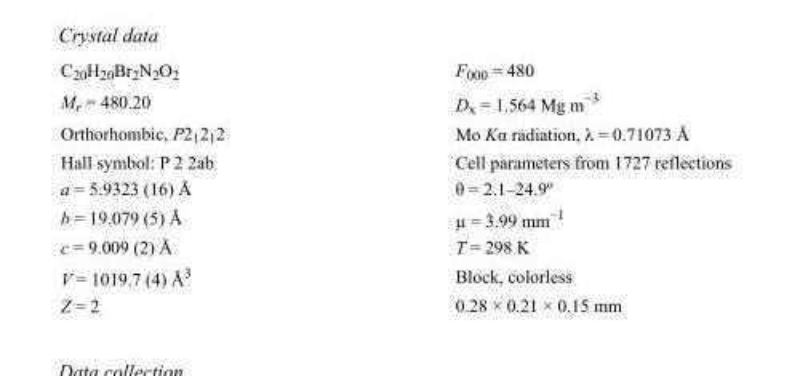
<table><tbody><tr><td>C<sub>20</sub>H<sub>20</sub>Br<sub>2</sub>N<sub>2</sub>O<sub>2</sub></td><td>F000 = 480</td></tr><tr><td>M<sub>r</sub> = 480.20</td><td>D<sub>x</sub> = 1.564 Mg m<sup>−3</sup></td></tr><tr><td>Orthorhombic, P2<sub>1</sub>2<sub>1</sub>2</td><td>Mo Kα radiation, λ = 0.71073 Å</td></tr><tr><td>Hall symbol: P 2 2ab</td><td>Cell parameters from 1727 reflections</td></tr><tr><td>a = 5.9323 (16) Å</td><td>θ = 2.1–24.9º</td></tr><tr><td>b = 19.079 (5) Å</td><td>µ = 3.99 mm<sup>−1</sup></td></tr><tr><td>c = 9.009 (2) Å</td><td>T = 298 K</td></tr><tr><td>V = 1019.7 (4) Å<sup>3</sup></td><td>Block, colorless</td></tr><tr><td>Z = 2</td><td>0.28 × 0.21 × 0.15 mm</td></tr></tbody></table>